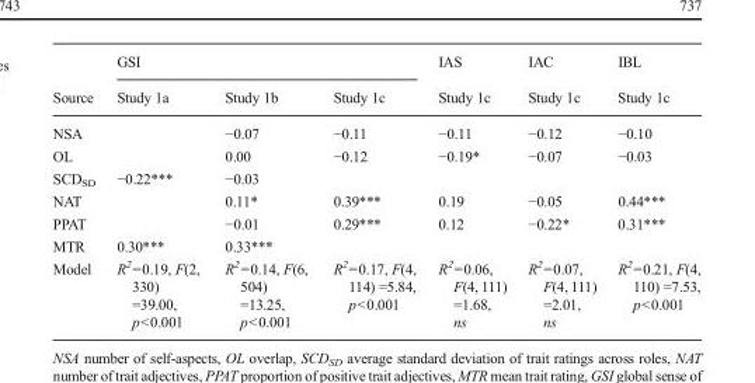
<table><thead><tr><td rowspan="2">Source</td><td colspan="3">GSI</td><td rowspan="2">IAS Study 1c</td><td rowspan="2">IAC Study 1c</td><td rowspan="2">IBL Study 1c</td></tr><tr><td>Study 1a</td><td>Study 1b</td><td>Study 1c</td></tr></thead><tbody><tr><td>NSA</td><td></td><td>−0.07</td><td>−0.11</td><td>−0.11</td><td>−0.12</td><td>−0.10</td></tr><tr><td>OL</td><td></td><td>0.00</td><td>−0.12</td><td>−0.19*</td><td>−0.07</td><td>−0.03</td></tr><tr><td>SCD<sub>SD</sub></td><td>−0.22***</td><td>−0.03</td><td></td><td></td><td></td><td></td></tr><tr><td>NAT</td><td></td><td>0.11*</td><td>0.39***</td><td>0.19</td><td>−0.05</td><td>0.44***</td></tr><tr><td>PPAT</td><td></td><td>−0.01</td><td>0.29***</td><td>0.12</td><td>−0.22*</td><td>0.31***</td></tr><tr><td>MTR</td><td>0.30***</td><td>0.33***</td><td></td><td></td><td></td><td></td></tr><tr><td>Model</td><td>R<sup>2</sup>=0.19, F(2, 330) =39.00, p&lt;0.001</td><td>R<sup>2</sup>=0.14, F(6, 504) =13.25, p&lt;0.001</td><td>R<sup>2</sup>=0.17, F(4, 114) =5.84, p&lt;0.001</td><td>R<sup>2</sup>=0.06, F(4, 111) =1.68, ns</td><td>R<sup>2</sup>=0.07, F(4, 111) =2.01, ns</td><td>R<sup>2</sup>=0.21, F(4, 110) =7.53, p&lt;0.001</td></tr></tbody></table>